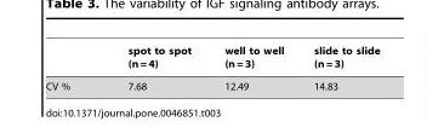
<table><thead><tr><td></td><td>spot to spot (n = 4)</td><td>well to well (n = 3)</td><td>slide to slide (n = 3)</td></tr></thead><tbody><tr><td>CV %</td><td>7.68</td><td>12.49</td><td>14.83</td></tr></tbody></table>